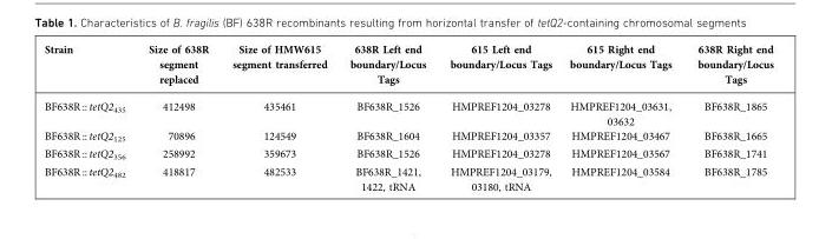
<table><thead><tr><td>Strain</td><td>Size of 638R segment replaced</td><td>Size of HMW615 segment transferred</td><td>638R Left end boundary/Locus Tags</td><td>615 Left end boundary/Locus Tags</td><td>615 Right end boundary/Locus Tags</td><td>638R Right end boundary/Locus Tags</td></tr></thead><tbody><tr><td>BF638R :: tetQ2<sub>435</sub></td><td>412498</td><td>435461</td><td>BF638R_1526</td><td>HMPREF1204_03278</td><td>HMPREF1204_03631, 03632</td><td>BF638R_1865</td></tr><tr><td>BF638R :: tetQ2<sub>125</sub></td><td>70896</td><td>124549</td><td>BF638R_1604</td><td>HMPREF1204_03357</td><td>HMPREF1204_03467</td><td>BF638R_1665</td></tr><tr><td>BF638R :: tetQ2<sub>356</sub></td><td>258992</td><td>359673</td><td>BF638R_1526</td><td>HMPREF1204_03278</td><td>HMPREF1204_03567</td><td>BF638R_1741</td></tr><tr><td>BF638R :: tetQ2<sub>482</sub></td><td>418817</td><td>482533</td><td>BF638R_1421, 1422, tRNA</td><td>HMPREF1204_03179, 03180, tRNA</td><td>HMPREF1204_03584</td><td>BF638R_1785</td></tr></tbody></table>